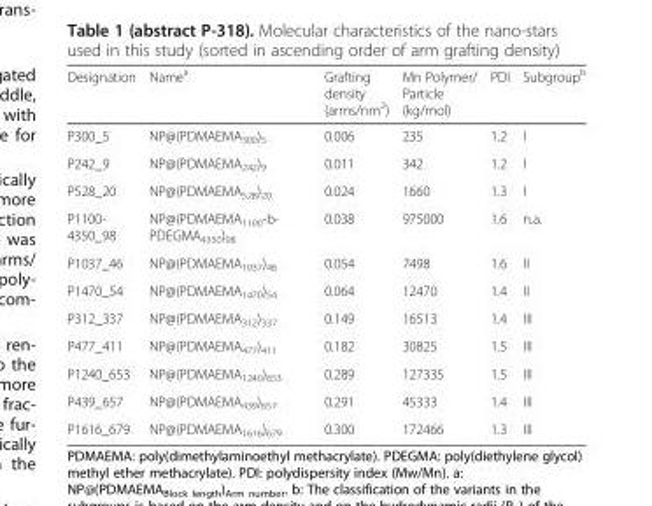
<table><thead><tr><td>Designation</td><td>Name<sup>a</sup></td><td>Grafting density (arms/nm<sup>2</sup>)</td><td>Mn Polymer/ Particle (kg/mol)</td><td>PDI</td><td>Subgroup<sup>b</sup></td></tr></thead><tbody><tr><td>P300_5</td><td>NP@(PDMAEMA<sub>300</sub>)<sub>5</sub></td><td>0.006</td><td>235</td><td>1.2</td><td>I</td></tr><tr><td>P242_9</td><td>NP@(PDMAEMA<sub>242</sub>)<sub>9</sub></td><td>0.011</td><td>342</td><td>1.2</td><td>I</td></tr><tr><td>P528_20</td><td>NP@(PDMAEMA<sub>528</sub>)<sub>20</sub></td><td>0.024</td><td>1660</td><td>1.3</td><td>I</td></tr><tr><td>P1100- 4350_98</td><td>NP@(PDMAEMA<sub>1100</sub>-b- PDEGMA<sub>4350</sub>)<sub>98</sub></td><td>0.038</td><td>975000</td><td>1.6</td><td>n.a.</td></tr><tr><td>P1037_46</td><td>NP@(PDMAEMA<sub>1037</sub>)<sub>46</sub></td><td>0.054</td><td>7498</td><td>1.6</td><td>II</td></tr><tr><td>P1470_54</td><td>NP@(PDMAEMA<sub>1470</sub>)<sub>54</sub></td><td>0.064</td><td>12470</td><td>1.4</td><td>II</td></tr><tr><td>P312_337</td><td>NP@(PDMAEMA<sub>312</sub>)<sub>337</sub></td><td>0.149</td><td>16513</td><td>1.4</td><td>III</td></tr><tr><td>P477_411</td><td>NP@(PDMAEMA<sub>477</sub>)<sub>411</sub></td><td>0.182</td><td>30825</td><td>1.5</td><td>III</td></tr><tr><td>P1240_653</td><td>NP@(PDMAEMA<sub>1240</sub>)<sub>653</sub></td><td>0.289</td><td>127335</td><td>1.5</td><td>III</td></tr><tr><td>P439_657</td><td>NP@(PDMAEMA<sub>439</sub>)<sub>657</sub></td><td>0.291</td><td>45333</td><td>1.4</td><td>III</td></tr><tr><td>P1616_679</td><td>NP@(PDMAEMA<sub>1616</sub>)<sub>679</sub></td><td>0.300</td><td>172466</td><td>1.3</td><td>III</td></tr></tbody></table>